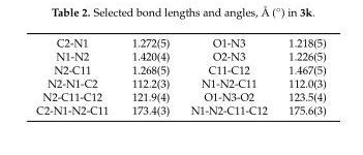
<table><tbody><tr><td>C2-N1</td><td>1.272(5)</td><td>O1-N3</td><td>1.218(5)</td></tr><tr><td>N1-N2</td><td>1.420(4)</td><td>O2-N3</td><td>1.226(5)</td></tr><tr><td>N2-C11</td><td>1.268(5)</td><td>C11-C12</td><td>1.467(5)</td></tr><tr><td>N2-N1-C2</td><td>112.2(3)</td><td>N1-N2-C11</td><td>112.0(3)</td></tr><tr><td>N2-C11-C12</td><td>121.9(4)</td><td>O1-N3-O2</td><td>123.5(4)</td></tr><tr><td>C2-N1-N2-C11</td><td>173.4(3)</td><td>N1-N2-C11-C12</td><td>175.6(3)</td></tr></tbody></table>